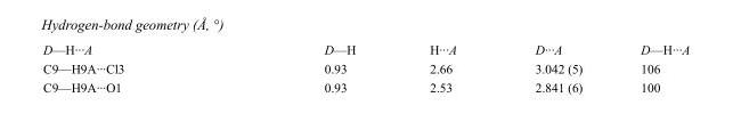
<table><tbody><tr><td>D—H···A</td><td>D—H</td><td>H···A</td><td>D···A</td><td>D—H···A</td></tr><tr><td>C9—H9A···Cl3</td><td>0.93</td><td>2.66</td><td>3.042 (5)</td><td>106</td></tr><tr><td>C9—H9A···O1</td><td>0.93</td><td>2.53</td><td>2.841 (6)</td><td>100</td></tr></tbody></table>